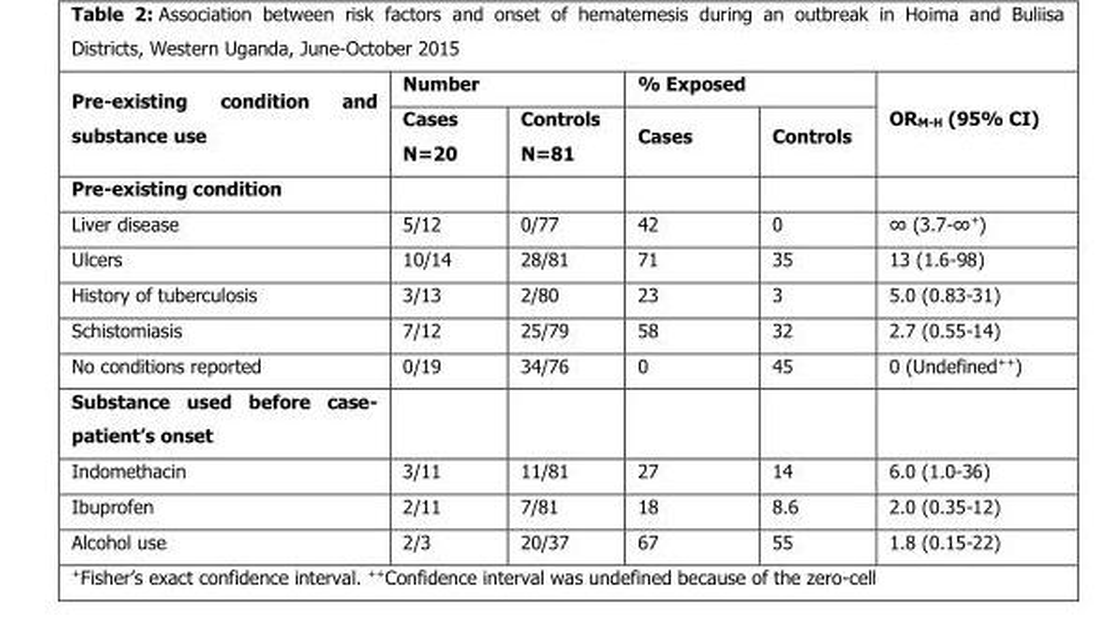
<table><thead><tr><td rowspan="2">Pre-existing condition and substance use</td><td colspan="2">Number</td><td colspan="2">% Exposed</td><td rowspan="2">OR<sub>M-H</sub> (95% CI)</td></tr><tr><td>Cases N=20</td><td>Controls N=81</td><td>Cases</td><td>Controls</td></tr></thead><tbody><tr><td colspan="6">Pre-existing condition</td></tr><tr><td>Liver disease</td><td>5/12</td><td>0/77</td><td>42</td><td>0</td><td>∞ (3.7-∞<sup>+</sup>)</td></tr><tr><td>Ulcers</td><td>10/14</td><td>28/81</td><td>71</td><td>35</td><td>13 (1.6-98)</td></tr><tr><td>History of tuberculosis</td><td>3/13</td><td>2/80</td><td>23</td><td>3</td><td>5.0 (0.83-31)</td></tr><tr><td>Schistomiasis</td><td>7/12</td><td>25/79</td><td>58</td><td>32</td><td>2.7 (0.55-14)</td></tr><tr><td>No conditions reported</td><td>0/19</td><td>34/76</td><td>0</td><td>45</td><td>0 (Undefined<sup>++</sup>)</td></tr><tr><td colspan="6">Substance used before case- patient’s onset</td></tr><tr><td>Indomethacin</td><td>3/11</td><td>11/81</td><td>27</td><td>14</td><td>6.0 (1.0-36)</td></tr><tr><td>Ibuprofen</td><td>2/11</td><td>7/81</td><td>18</td><td>8.6</td><td>2.0 (0.35-12)</td></tr><tr><td>Alcohol use</td><td>2/3</td><td>20/37</td><td>67</td><td>55</td><td>1.8 (0.15-22)</td></tr></tbody></table>